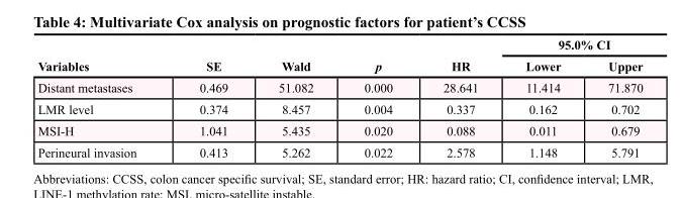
<table><thead><tr><td rowspan="2">Variables</td><td rowspan="2">SE</td><td rowspan="2">Wald</td><td rowspan="2">p</td><td rowspan="2">HR</td><td colspan="2">95.0% CI</td></tr><tr><td>Lower</td><td>Upper</td></tr></thead><tbody><tr><td>Distant metastases</td><td>0.469</td><td>51.082</td><td>0.000</td><td>28.641</td><td>11.414</td><td>71.870</td></tr><tr><td>LMR level</td><td>0.374</td><td>8.457</td><td>0.004</td><td>0.337</td><td>0.162</td><td>0.702</td></tr><tr><td>MSI-H</td><td>1.041</td><td>5.435</td><td>0.020</td><td>0.088</td><td>0.011</td><td>0.679</td></tr><tr><td>Perineural invasion</td><td>0.413</td><td>5.262</td><td>0.022</td><td>2.578</td><td>1.148</td><td>5.791</td></tr></tbody></table>